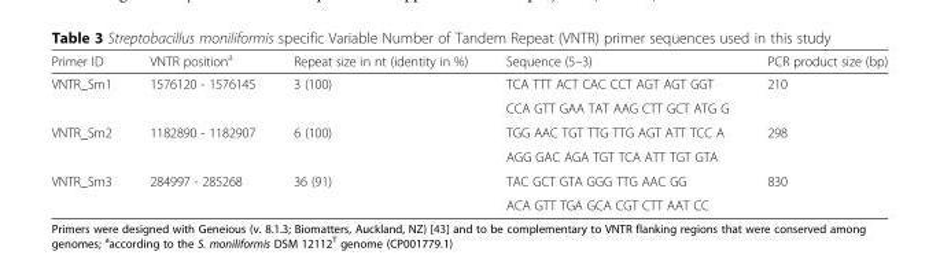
<table><thead><tr><td>Primer ID</td><td>VNTR position<sup>a</sup></td><td>Repeat size in nt (identity in %)</td><td>Sequence (5–3)</td><td>PCR product size (bp)</td></tr></thead><tbody><tr><td rowspan="2">VNTR_Sm1</td><td rowspan="2">1576120 - 1576145</td><td rowspan="2">3 (100)</td><td>TCA TTT ACT CAC CCT AGT AGT GGT</td><td rowspan="2">210</td></tr><tr><td>CCA GTT GAA TAT AAG CTT GCT ATG G</td></tr><tr><td rowspan="2">VNTR_Sm2</td><td rowspan="2">1182890 - 1182907</td><td rowspan="2">6 (100)</td><td>TGG AAC TGT TTG TTG AGT ATT TCC A</td><td rowspan="2">298</td></tr><tr><td>AGG GAC AGA TGT TCA ATT TGT GTA</td></tr><tr><td rowspan="2">VNTR_Sm3</td><td rowspan="2">284997 - 285268</td><td rowspan="2">36 (91)</td><td>TAC GCT GTA GGG TTG AAC GG</td><td rowspan="2">830</td></tr><tr><td>ACA GTT TGA GCA CGT CTT AAT CC</td></tr></tbody></table>